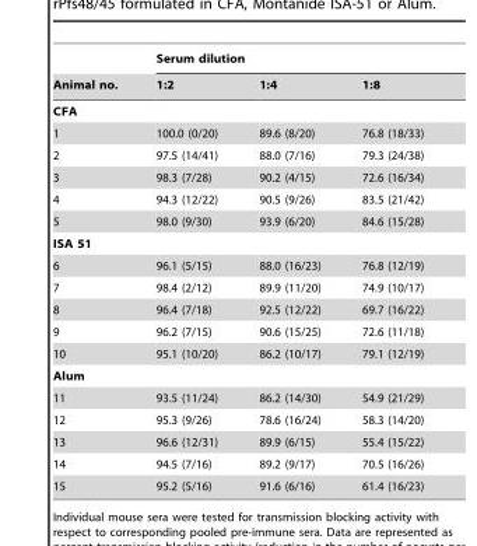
<table><thead><tr><td rowspan="2">Animal no.</td><td colspan="3">Serum dilution</td></tr><tr><td>1:2</td><td>1:4</td><td>1:8</td></tr></thead><tbody><tr><td colspan="4">CFA</td></tr><tr><td>1</td><td>100.0 (0/20)</td><td>89.6 (8/20)</td><td>76.8 (18/33)</td></tr><tr><td>2</td><td>97.5 (14/41)</td><td>88.0 (7/16)</td><td>79.3 (24/38)</td></tr><tr><td>3</td><td>98.3 (7/28)</td><td>90.2 (4/15)</td><td>72.6 (16/34)</td></tr><tr><td>4</td><td>94.3 (12/22)</td><td>90.5 (9/26)</td><td>83.5 (21/42)</td></tr><tr><td>5</td><td>98.0 (9/30)</td><td>93.9 (6/20)</td><td>84.6 (15/28)</td></tr><tr><td colspan="4">ISA 51</td></tr><tr><td>6</td><td>96.1 (5/15)</td><td>88.0 (16/23)</td><td>76.8 (12/19)</td></tr><tr><td>7</td><td>98.4 (2/12)</td><td>89.9 (11/20)</td><td>74.9 (10/17)</td></tr><tr><td>8</td><td>96.4 (7/18)</td><td>92.5 (12/22)</td><td>69.7 (16/22)</td></tr><tr><td>9</td><td>96.2 (7/15)</td><td>90.6 (15/25)</td><td>72.6 (11/18)</td></tr><tr><td>10</td><td>95.1 (10/20)</td><td>86.2 (10/17)</td><td>79.1 (12/19)</td></tr><tr><td colspan="4">Alum</td></tr><tr><td>11</td><td>93.5 (11/24)</td><td>86.2 (14/30)</td><td>54.9 (21/29)</td></tr><tr><td>12</td><td>95.3 (9/26)</td><td>78.6 (16/24)</td><td>58.3 (14/20)</td></tr><tr><td>13</td><td>96.6 (12/31)</td><td>89.9 (6/15)</td><td>55.4 (15/22)</td></tr><tr><td>14</td><td>94.5 (7/16)</td><td>89.2 (9/17)</td><td>70.5 (16/26)</td></tr><tr><td>15</td><td>95.2 (5/16)</td><td>91.6 (6/16)</td><td>61.4 (16/23)</td></tr></tbody></table>